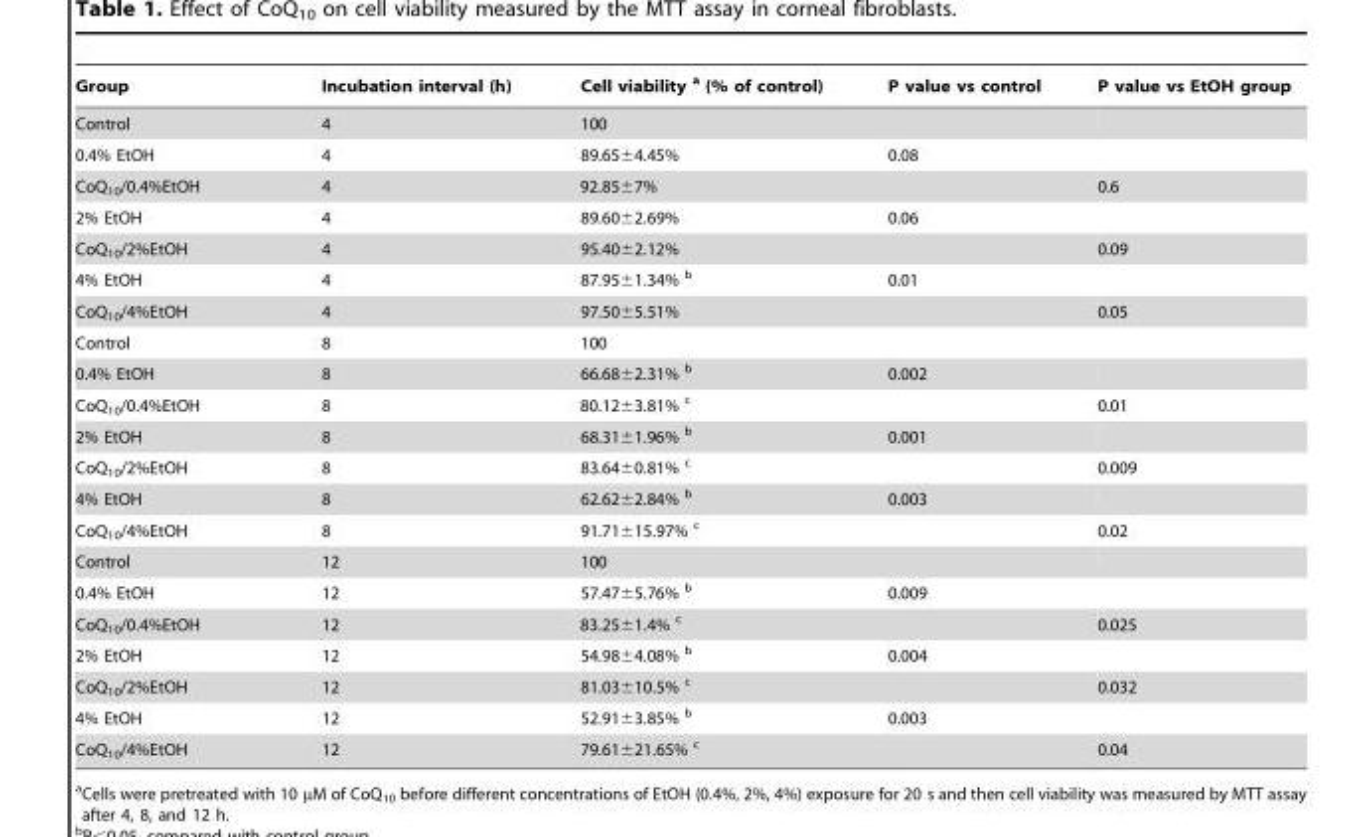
<table><thead><tr><td>Group</td><td>Incubation interval (h)</td><td>Cell viability a (% of control)</td><td>P value vs control</td><td>P value vs EtOH group</td></tr></thead><tbody><tr><td>Control</td><td>4</td><td>100</td><td></td><td></td></tr><tr><td>0.4% EtOH</td><td>4</td><td>89.65±4.45%</td><td>0.08</td><td></td></tr><tr><td>CoQ<sub>10</sub>/0.4%EtOH</td><td>4</td><td>92.85±7%</td><td></td><td>0.6</td></tr><tr><td>2% EtOH</td><td>4</td><td>89.60±2.69%</td><td>0.06</td><td></td></tr><tr><td>CoQ<sub>10</sub>/2%EtOH</td><td>4</td><td>95.40±2.12%</td><td></td><td>0.09</td></tr><tr><td>4% EtOH</td><td>4</td><td>87.95±1.34% b</td><td>0.01</td><td></td></tr><tr><td>CoQ<sub>10</sub>/4%EtOH</td><td>4</td><td>97.50±5.51%</td><td></td><td>0.05</td></tr><tr><td>Control</td><td>8</td><td>100</td><td></td><td></td></tr><tr><td>0.4% EtOH</td><td>8</td><td>66.68±2.31% b</td><td>0.002</td><td></td></tr><tr><td>CoQ<sub>10</sub>/0.4%EtOH</td><td>8</td><td>80.12±3.81% c</td><td></td><td>0.01</td></tr><tr><td>2% EtOH</td><td>8</td><td>68.31±1.96% b</td><td>0.001</td><td></td></tr><tr><td>CoQ<sub>10</sub>/2%EtOH</td><td>8</td><td>83.64±0.81% c</td><td></td><td>0.009</td></tr><tr><td>4% EtOH</td><td>8</td><td>62.62±2.84% b</td><td>0.003</td><td></td></tr><tr><td>CoQ<sub>10</sub>/4%EtOH</td><td>8</td><td>91.71±15.97% c</td><td></td><td>0.02</td></tr><tr><td>Control</td><td>12</td><td>100</td><td></td><td></td></tr><tr><td>0.4% EtOH</td><td>12</td><td>57.47±5.76% b</td><td>0.009</td><td></td></tr><tr><td>CoQ<sub>10</sub>/0.4%EtOH</td><td>12</td><td>83.25±1.4% c</td><td></td><td>0.025</td></tr><tr><td>2% EtOH</td><td>12</td><td>54.98±4.08% b</td><td>0.004</td><td></td></tr><tr><td>CoQ<sub>10</sub>/2%EtOH</td><td>12</td><td>81.03±10.5% c</td><td></td><td>0.032</td></tr><tr><td>4% EtOH</td><td>12</td><td>52.91±3.85% b</td><td>0.003</td><td></td></tr><tr><td>CoQ<sub>10</sub>/4%EtOH</td><td>12</td><td>79.61±21.65% c</td><td></td><td>0.04</td></tr></tbody></table>